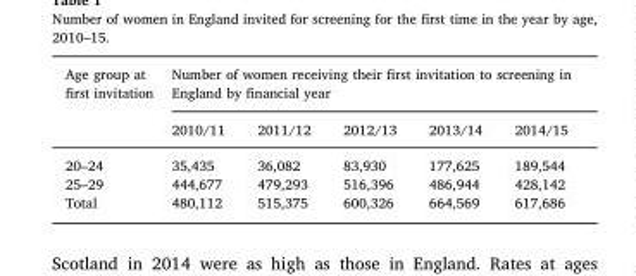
<table><thead><tr><td rowspan="2">Age group at first invitation</td><td colspan="5">Number of women receiving their first invitation to screening in England by financial year</td></tr><tr><td>2010/11</td><td>2011/12</td><td>2012/13</td><td>2013/14</td><td>2014/15</td></tr></thead><tbody><tr><td>20–24</td><td>35,435</td><td>36,082</td><td>83,930</td><td>177,625</td><td>189,544</td></tr><tr><td>25–29</td><td>444,677</td><td>479,293</td><td>516,396</td><td>486,944</td><td>428,142</td></tr><tr><td>Total</td><td>480,112</td><td>515,375</td><td>600,326</td><td>664,569</td><td>617,686</td></tr></tbody></table>